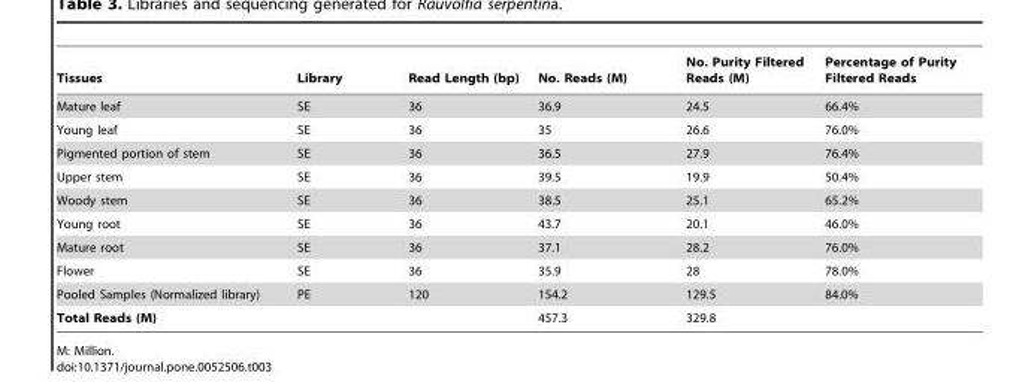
<table><thead><tr><td>Tissues</td><td>Library</td><td>Read Length (bp)</td><td>No. Reads (M)</td><td>No. Purity Filtered Reads (M)</td><td>Percentage of Purity Filtered Reads</td></tr></thead><tbody><tr><td>Mature leaf</td><td>SE</td><td>36</td><td>36.9</td><td>24.5</td><td>66.4%</td></tr><tr><td>Young leaf</td><td>SE</td><td>36</td><td>35</td><td>26.6</td><td>76.0%</td></tr><tr><td>Pigmented portion of stem</td><td>SE</td><td>36</td><td>36.5</td><td>27.9</td><td>76.4%</td></tr><tr><td>Upper stem</td><td>SE</td><td>36</td><td>39.5</td><td>19.9</td><td>50.4%</td></tr><tr><td>Woody stem</td><td>SE</td><td>36</td><td>38.5</td><td>25.1</td><td>65.2%</td></tr><tr><td>Young root</td><td>SE</td><td>36</td><td>43.7</td><td>20.1</td><td>46.0%</td></tr><tr><td>Mature root</td><td>SE</td><td>36</td><td>37.1</td><td>28.2</td><td>76.0%</td></tr><tr><td>Flower</td><td>SE</td><td>36</td><td>35.9</td><td>28</td><td>78.0%</td></tr><tr><td>Pooled Samples (Normalized library)</td><td>PE</td><td>120</td><td>154.2</td><td>129.5</td><td>84.0%</td></tr><tr><td>Total Reads (M)</td><td></td><td></td><td>457.3</td><td>329.8</td><td></td></tr></tbody></table>